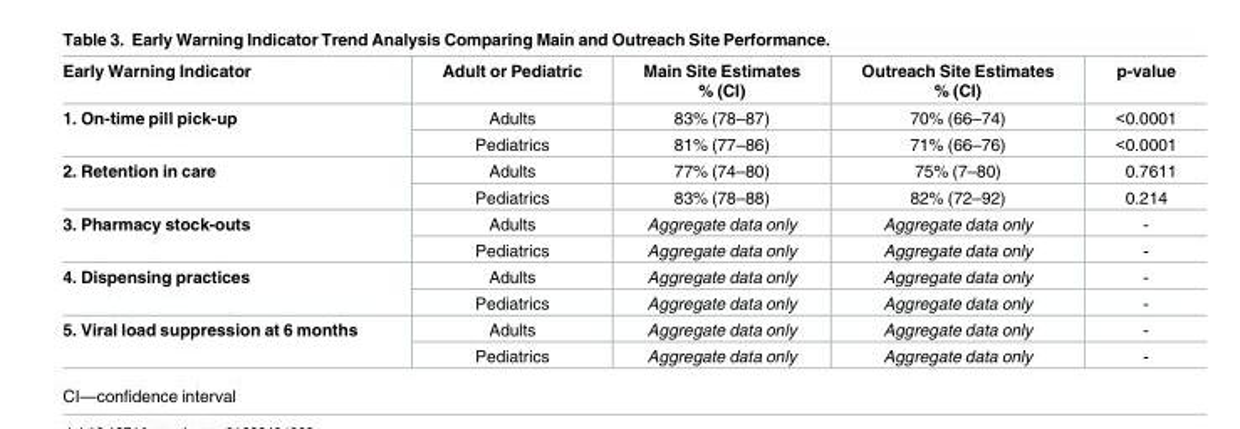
<table><thead><tr><td>Early Warning Indicator</td><td>Adult or Pediatric</td><td>Main Site Estimates % (CI)</td><td>Outreach Site Estimates % (CI)</td><td>p-value</td></tr></thead><tbody><tr><td rowspan="2">1. On-time pill pick-up</td><td>Adults</td><td>83% (78–87)</td><td>70% (66–74)</td><td>&lt;0.0001</td></tr><tr><td>Pediatrics</td><td>81% (77–86)</td><td>71% (66–76)</td><td>&lt;0.0001</td></tr><tr><td rowspan="2">2. Retention in care</td><td>Adults</td><td>77% (74–80)</td><td>75% (7–80)</td><td>0.7611</td></tr><tr><td>Pediatrics</td><td>83% (78–88)</td><td>82% (72–92)</td><td>0.214</td></tr><tr><td rowspan="2">3. Pharmacy stock-outs</td><td>Adults</td><td>Aggregate data only</td><td>Aggregate data only</td><td>-</td></tr><tr><td>Pediatrics</td><td>Aggregate data only</td><td>Aggregate data only</td><td>-</td></tr><tr><td rowspan="2">4. Dispensing practices</td><td>Adults</td><td>Aggregate data only</td><td>Aggregate data only</td><td>-</td></tr><tr><td>Pediatrics</td><td>Aggregate data only</td><td>Aggregate data only</td><td>-</td></tr><tr><td rowspan="2">5. Viral load suppression at 6 months</td><td>Adults</td><td>Aggregate data only</td><td>Aggregate data only</td><td>-</td></tr><tr><td>Pediatrics</td><td>Aggregate data only</td><td>Aggregate data only</td><td>-</td></tr></tbody></table>